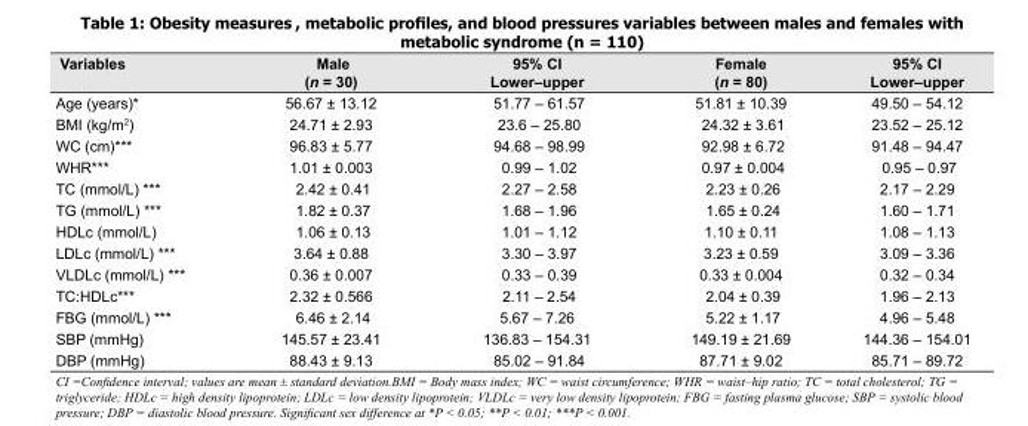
<table><thead><tr><td>Variables</td><td>Male (n = 30)</td><td>95% CI Lower–upper</td><td>Female (n = 80)</td><td>95% CI Lower–upper</td></tr></thead><tbody><tr><td>Age (years)*</td><td>56.67 ± 13.12</td><td>51.77 – 61.57</td><td>51.81 ± 10.39</td><td>49.50 – 54.12</td></tr><tr><td>BMI (kg/m<sup>2</sup>)</td><td>24.71 ± 2.93</td><td>23.6 – 25.80</td><td>24.32 ± 3.61</td><td>23.52 – 25.12</td></tr><tr><td>WC (cm)***</td><td>96.83 ± 5.77</td><td>94.68 – 98.99</td><td>92.98 ± 6.72</td><td>91.48 – 94.47</td></tr><tr><td>WHR***</td><td>1.01 ± 0.003</td><td>0.99 – 1.02</td><td>0.97 ± 0.004</td><td>0.95 – 0.97</td></tr><tr><td>TC (mmol/L) ***</td><td>2.42 ± 0.41</td><td>2.27 – 2.58</td><td>2.23 ± 0.26</td><td>2.17 – 2.29</td></tr><tr><td>TG (mmol/L) ***</td><td>1.82 ± 0.37</td><td>1.68 – 1.96</td><td>1.65 ± 0.24</td><td>1.60 – 1.71</td></tr><tr><td>HDLc (mmol/L)</td><td>1.06 ± 0.13</td><td>1.01 – 1.12</td><td>1.10 ± 0.11</td><td>1.08 – 1.13</td></tr><tr><td>LDLc (mmol/L) ***</td><td>3.64 ± 0.88</td><td>3.30 – 3.97</td><td>3.23 ± 0.59</td><td>3.09 – 3.36</td></tr><tr><td>VLDLc (mmol/L) ***</td><td>0.36 ± 0.007</td><td>0.33 – 0.39</td><td>0.33 ± 0.004</td><td>0.32 – 0.34</td></tr><tr><td>TC:HDLc***</td><td>2.32 ± 0.566</td><td>2.11 – 2.54</td><td>2.04 ± 0.39</td><td>1.96 – 2.13</td></tr><tr><td>FBG (mmol/L) ***</td><td>6.46 ± 2.14</td><td>5.67 – 7.26</td><td>5.22 ± 1.17</td><td>4.96 – 5.48</td></tr><tr><td>SBP (mmHg)</td><td>145.57 ± 23.41</td><td>136.83 – 154.31</td><td>149.19 ± 21.69</td><td>144.36 – 154.01</td></tr><tr><td>DBP (mmHg)</td><td>88.43 ± 9.13</td><td>85.02 – 91.84</td><td>87.71 ± 9.02</td><td>85.71 – 89.72</td></tr></tbody></table>